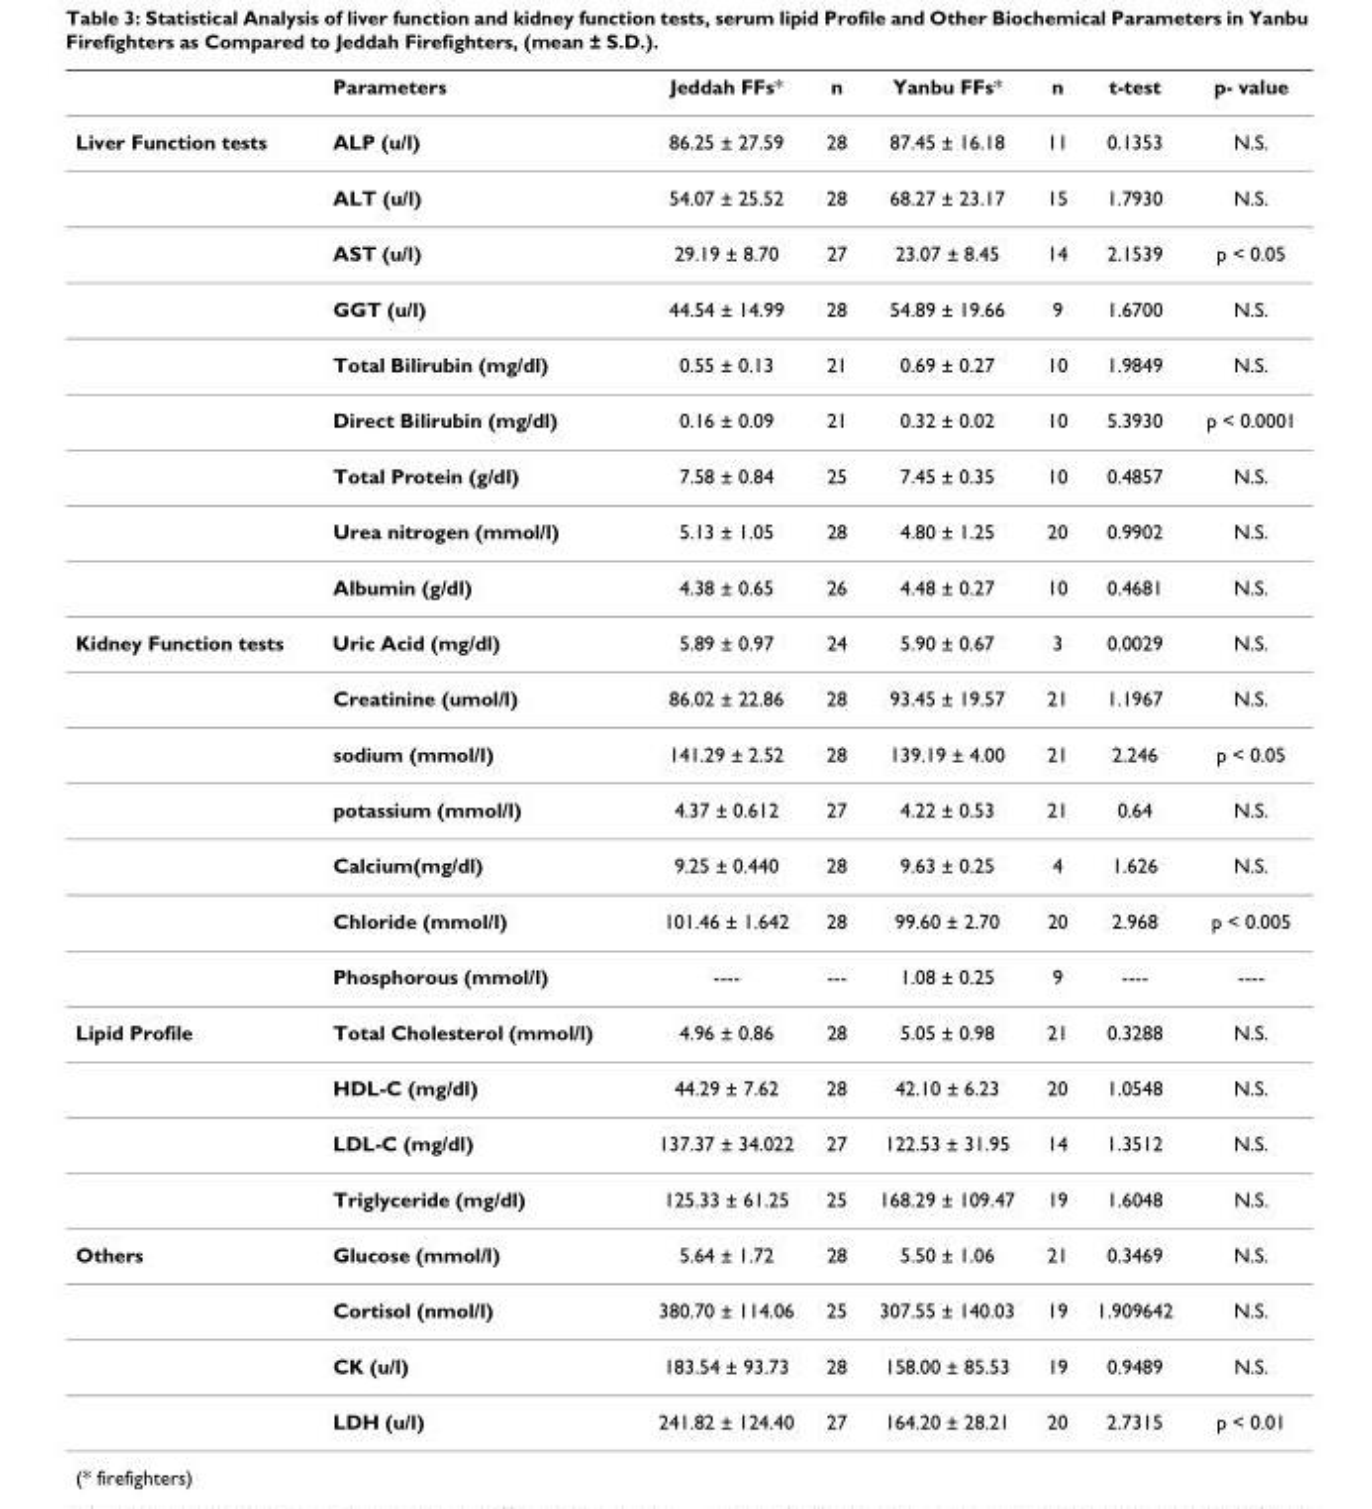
<table><thead><tr><td></td><td>Parameters</td><td>Jeddah FFs*</td><td>n</td><td>Yanbu FFs*</td><td>n</td><td>t-test</td><td>p- value</td></tr></thead><tbody><tr><td rowspan="9">Liver Function tests</td><td>ALP (u/l)</td><td>86.25 ± 27.59</td><td>28</td><td>87.45 ± 16.18</td><td>11</td><td>0.1353</td><td>N.S.</td></tr><tr><td>ALT (u/l)</td><td>54.07 ± 25.52</td><td>28</td><td>68.27 ± 23.17</td><td>15</td><td>1.7930</td><td>N.S.</td></tr><tr><td>AST (u/l)</td><td>29.19 ± 8.70</td><td>27</td><td>23.07 ± 8.45</td><td>14</td><td>2.1539</td><td>p &lt; 0.05</td></tr><tr><td>GGT (u/l)</td><td>44.54 ± 14.99</td><td>28</td><td>54.89 ± 19.66</td><td>9</td><td>1.6700</td><td>N.S.</td></tr><tr><td>Total Bilirubin (mg/dl)</td><td>0.55 ± 0.13</td><td>21</td><td>0.69 ± 0.27</td><td>10</td><td>1.9849</td><td>N.S.</td></tr><tr><td>Direct Bilirubin (mg/dl)</td><td>0.16 ± 0.09</td><td>21</td><td>0.32 ± 0.02</td><td>10</td><td>5.3930</td><td>p &lt; 0.0001</td></tr><tr><td>Total Protein (g/dl)</td><td>7.58 ± 0.84</td><td>25</td><td>7.45 ± 0.35</td><td>10</td><td>0.4857</td><td>N.S.</td></tr><tr><td>Urea nitrogen (mmol/l)</td><td>5.13 ± 1.05</td><td>28</td><td>4.80 ± 1.25</td><td>20</td><td>0.9902</td><td>N.S.</td></tr><tr><td>Albumin (g/dl)</td><td>4.38 ± 0.65</td><td>26</td><td>4.48 ± 0.27</td><td>10</td><td>0.4681</td><td>N.S.</td></tr><tr><td rowspan="7">Kidney Function tests</td><td>Uric Acid (mg/dl)</td><td>5.89 ± 0.97</td><td>24</td><td>5.90 ± 0.67</td><td>3</td><td>0.0029</td><td>N.S.</td></tr><tr><td>Creatinine (umol/l)</td><td>86.02 ± 22.86</td><td>28</td><td>93.45 ± 19.57</td><td>21</td><td>1.1967</td><td>N.S.</td></tr><tr><td>sodium (mmol/l)</td><td>141.29 ± 2.52</td><td>28</td><td>139.19 ± 4.00</td><td>21</td><td>2.246</td><td>p &lt; 0.05</td></tr><tr><td>potassium (mmol/l)</td><td>4.37 ± 0.612</td><td>27</td><td>4.22 ± 0.53</td><td>21</td><td>0.64</td><td>N.S.</td></tr><tr><td>Calcium(mg/dl)</td><td>9.25 ± 0.440</td><td>28</td><td>9.63 ± 0.25</td><td>4</td><td>1.626</td><td>N.S.</td></tr><tr><td>Chloride (mmol/l)</td><td>101.46 ± 1.642</td><td>28</td><td>99.60 ± 2.70</td><td>20</td><td>2.968</td><td>p &lt; 0.005</td></tr><tr><td>Phosphorous (mmol/l)</td><td>----</td><td>---</td><td>1.08 ± 0.25</td><td>9</td><td>----</td><td>----</td></tr><tr><td rowspan="4">Lipid Profile</td><td>Total Cholesterol (mmol/l)</td><td>4.96 ± 0.86</td><td>28</td><td>5.05 ± 0.98</td><td>21</td><td>0.3288</td><td>N.S.</td></tr><tr><td>HDL-C (mg/dl)</td><td>44.29 ± 7.62</td><td>28</td><td>42.10 ± 6.23</td><td>20</td><td>1.0548</td><td>N.S.</td></tr><tr><td>LDL-C (mg/dl)</td><td>137.37 ± 34.022</td><td>27</td><td>122.53 ± 31.95</td><td>14</td><td>1.3512</td><td>N.S.</td></tr><tr><td>Triglyceride (mg/dl)</td><td>125.33 ± 61.25</td><td>25</td><td>168.29 ± 109.47</td><td>19</td><td>1.6048</td><td>N.S.</td></tr><tr><td rowspan="4">Others</td><td>Glucose (mmol/l)</td><td>5.64 ± 1.72</td><td>28</td><td>5.50 ± 1.06</td><td>21</td><td>0.3469</td><td>N.S.</td></tr><tr><td>Cortisol (nmol/l)</td><td>380.70 ± 114.06</td><td>25</td><td>307.55 ± 140.03</td><td>19</td><td>1.909642</td><td>N.S.</td></tr><tr><td>CK (u/l)</td><td>183.54 ± 93.73</td><td>28</td><td>158.00 ± 85.53</td><td>19</td><td>0.9489</td><td>N.S.</td></tr><tr><td>LDH (u/l)</td><td>241.82 ± 124.40</td><td>27</td><td>164.20 ± 28.21</td><td>20</td><td>2.7315</td><td>p &lt; 0.01</td></tr></tbody></table>